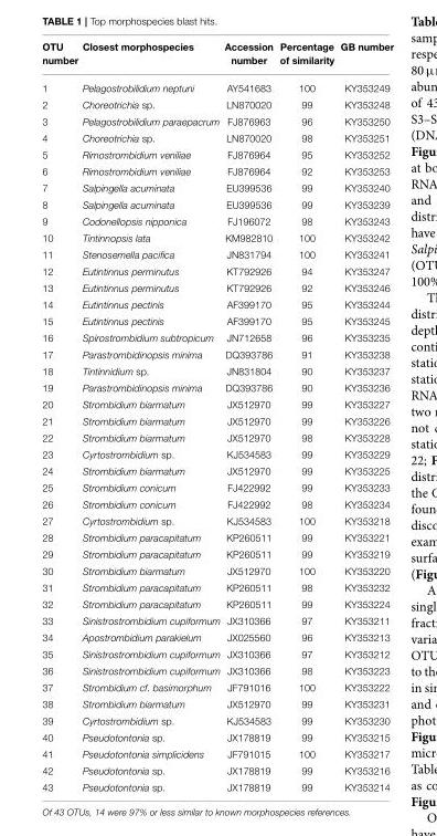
<table><thead><tr><td>OTU number</td><td>Closest morphospecies</td><td>Accession number</td><td>Percentage of similarity</td><td>GB number</td></tr></thead><tbody><tr><td>1</td><td>Pelagostrobilidium neptuni</td><td>AY541683</td><td>100</td><td>KY353249</td></tr><tr><td>2</td><td>Choreotrichia sp.</td><td>LN870020</td><td>99</td><td>KY353248</td></tr><tr><td>3</td><td>Pelagostrobilidium paraepacrum</td><td>FJ876963</td><td>96</td><td>KY353250</td></tr><tr><td>4</td><td>Choreotrichia sp.</td><td>LN870020</td><td>98</td><td>KY353251</td></tr><tr><td>5</td><td>Rimostrombidium veniliae</td><td>FJ876964</td><td>95</td><td>KY353252</td></tr><tr><td>6</td><td>Rimostrombidium veniliae</td><td>FJ876964</td><td>92</td><td>KY353253</td></tr><tr><td>7</td><td>Salpingella acuminata</td><td>EU399536</td><td>99</td><td>KY353240</td></tr><tr><td>8</td><td>Salpingella acuminata</td><td>EU399536</td><td>99</td><td>KY353239</td></tr><tr><td>9</td><td>Codonellopsis nipponica</td><td>FJ196072</td><td>98</td><td>KY353243</td></tr><tr><td>10</td><td>Tintinnopsis lata</td><td>KM982810</td><td>100</td><td>KY353242</td></tr><tr><td>11</td><td>Stenosemella pacifica</td><td>JN831794</td><td>100</td><td>KY353241</td></tr><tr><td>12</td><td>Eutintinnus perminutus</td><td>KT792926</td><td>94</td><td>KY353247</td></tr><tr><td>13</td><td>Eutintinnus perminutus</td><td>KT792926</td><td>92</td><td>KY353246</td></tr><tr><td>14</td><td>Eutintinnus pectinis</td><td>AF399170</td><td>95</td><td>KY353244</td></tr><tr><td>15</td><td>Eutintinnus pectinis</td><td>AF399170</td><td>95</td><td>KY353245</td></tr><tr><td>16</td><td>Spirostrombidium subtropicum</td><td>JN712658</td><td>96</td><td>KY353235</td></tr><tr><td>17</td><td>Parastrombidinopsis minima</td><td>DQ393786</td><td>91</td><td>KY353238</td></tr><tr><td>18</td><td>Tintinnidium sp.</td><td>JN831804</td><td>90</td><td>KY353237</td></tr><tr><td>19</td><td>Parastrombidinopsis minima</td><td>DQ393786</td><td>90</td><td>KY353236</td></tr><tr><td>20</td><td>Strombidium biarmatum</td><td>JX512970</td><td>99</td><td>KY353227</td></tr><tr><td>21</td><td>Strombidium biarmatum</td><td>JX512970</td><td>99</td><td>KY353226</td></tr><tr><td>22</td><td>Strombidium biarmatum</td><td>JX512970</td><td>98</td><td>KY353228</td></tr><tr><td>23</td><td>Cyrtostrombidium sp.</td><td>KJ534583</td><td>99</td><td>KY353229</td></tr><tr><td>24</td><td>Strombidium biarmatum</td><td>JX512970</td><td>99</td><td>KY353225</td></tr><tr><td>25</td><td>Strombidium conicum</td><td>FJ422992</td><td>99</td><td>KY353233</td></tr><tr><td>26</td><td>Strombidium conicum</td><td>FJ422992</td><td>98</td><td>KY353234</td></tr><tr><td>27</td><td>Cyrtostrombidium sp.</td><td>KJ534583</td><td>100</td><td>KY353218</td></tr><tr><td>28</td><td>Strombidium paracapitatum</td><td>KP260511</td><td>99</td><td>KY353221</td></tr><tr><td>29</td><td>Strombidium paracapitatum</td><td>KP260511</td><td>99</td><td>KY353219</td></tr><tr><td>30</td><td>Strombidium biarmatum</td><td>JX512970</td><td>100</td><td>KY353220</td></tr><tr><td>31</td><td>Strombidium paracapitatum</td><td>KP260511</td><td>98</td><td>KY353232</td></tr><tr><td>32</td><td>Strombidium paracapitatum</td><td>KP260511</td><td>99</td><td>KY353224</td></tr><tr><td>33</td><td>Sinistrostrombidium cupiformum</td><td>JX310366</td><td>97</td><td>KY353211</td></tr><tr><td>34</td><td>Apostrombidium parakielum</td><td>JX025560</td><td>96</td><td>KY353213</td></tr><tr><td>35</td><td>Sinistrostrombidium cupiformum</td><td>JX310366</td><td>97</td><td>KY353212</td></tr><tr><td>36</td><td>Sinistrostrombidium cupiformum</td><td>JX310366</td><td>98</td><td>KY353223</td></tr><tr><td>37</td><td>Strombidium cf. basimorphum</td><td>JF791016</td><td>100</td><td>KY353222</td></tr><tr><td>38</td><td>Strombidium biarmatum</td><td>JX512970</td><td>99</td><td>KY353231</td></tr><tr><td>39</td><td>Cyrtostrombidium sp.</td><td>KJ534583</td><td>99</td><td>KY353230</td></tr><tr><td>40</td><td>Pseudotontonia sp.</td><td>JX178819</td><td>99</td><td>KY353215</td></tr><tr><td>41</td><td>Pseudotontonia simplicidens</td><td>JF791015</td><td>100</td><td>KY353217</td></tr><tr><td>42</td><td>Pseudotontonia sp.</td><td>JX178819</td><td>99</td><td>KY353216</td></tr><tr><td>43</td><td>Pseudotontonia sp.</td><td>JX178819</td><td>99</td><td>KY353214</td></tr></tbody></table>